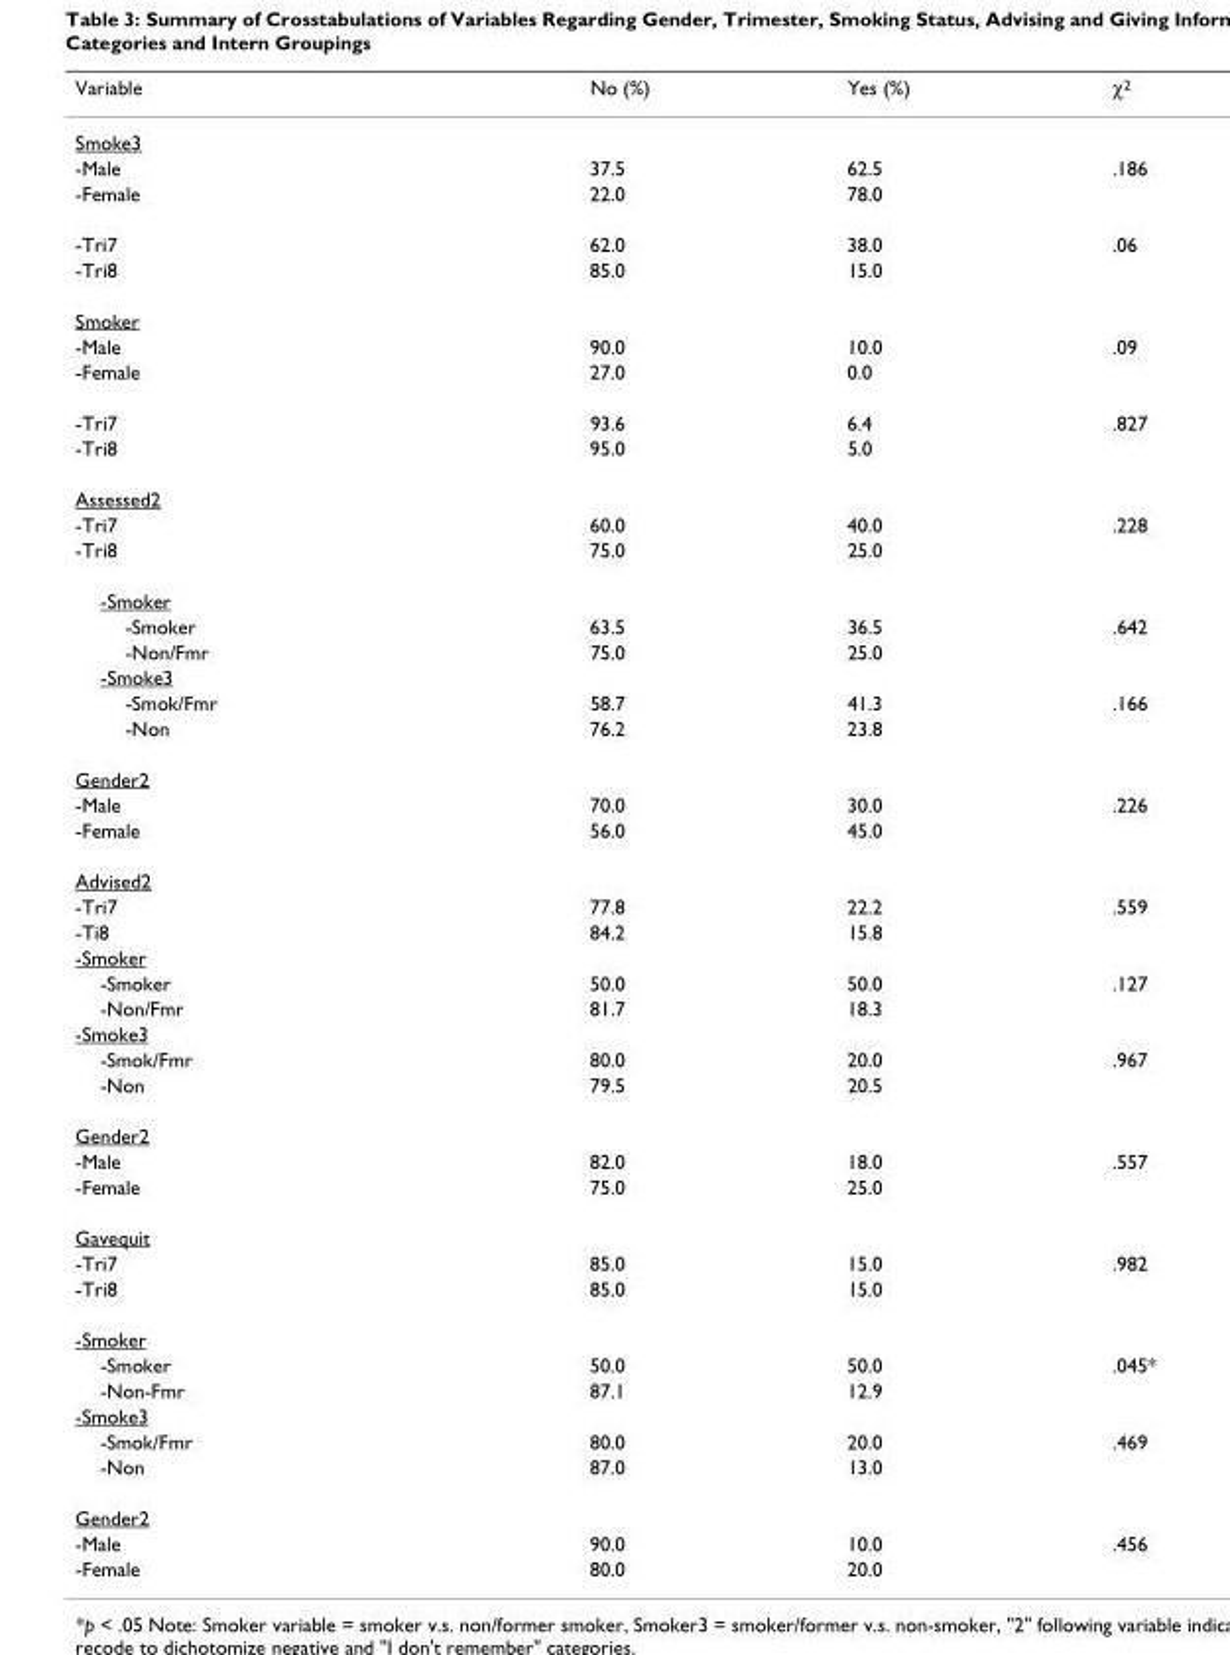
<table><thead><tr><td>Variable</td><td>No (%)</td><td>Yes (%)</td><td>χ<sup>2</sup></td></tr></thead><tbody><tr><td colspan="4">Smoke3</td></tr><tr><td>-Male</td><td>37.5</td><td>62.5</td><td>.186</td></tr><tr><td>-Female</td><td>22.0</td><td>78.0</td><td></td></tr><tr><td>-Tri7</td><td>62.0</td><td>38.0</td><td>.06</td></tr><tr><td>-Tri8</td><td>85.0</td><td>15.0</td><td></td></tr><tr><td colspan="4">Smoker</td></tr><tr><td>-Male</td><td>90.0</td><td>10.0</td><td>.09</td></tr><tr><td>-Female</td><td>27.0</td><td>0.0</td><td></td></tr><tr><td>-Tri7</td><td>93.6</td><td>6.4</td><td>.827</td></tr><tr><td>-Tri8</td><td>95.0</td><td>5.0</td><td></td></tr><tr><td colspan="4">Assessed2</td></tr><tr><td>-Tri7</td><td>60.0</td><td>40.0</td><td>.228</td></tr><tr><td>-Tri8</td><td>75.0</td><td>25.0</td><td></td></tr><tr><td colspan="4">-Smoker</td></tr><tr><td>-Smoker</td><td>63.5</td><td>36.5</td><td>.642</td></tr><tr><td>-Non/Fmr</td><td>75.0</td><td>25.0</td><td></td></tr><tr><td colspan="4">-Smoke3</td></tr><tr><td>-Smok/Fmr</td><td>58.7</td><td>41.3</td><td>.166</td></tr><tr><td>-Non</td><td>76.2</td><td>23.8</td><td></td></tr><tr><td colspan="4">Gender2</td></tr><tr><td>-Male</td><td>70.0</td><td>30.0</td><td>.226</td></tr><tr><td>-Female</td><td>56.0</td><td>45.0</td><td></td></tr><tr><td colspan="4">Advised2</td></tr><tr><td>-Tri7</td><td>77.8</td><td>22.2</td><td>.559</td></tr><tr><td>-Ti8</td><td>84.2</td><td>15.8</td><td></td></tr><tr><td colspan="4">-Smoker</td></tr><tr><td>-Smoker</td><td>50.0</td><td>50.0</td><td>.127</td></tr><tr><td>-Non/Fmr</td><td>81.7</td><td>18.3</td><td></td></tr><tr><td colspan="4">-Smoke3</td></tr><tr><td>-Smok/Fmr</td><td>80.0</td><td>20.0</td><td>.967</td></tr><tr><td>-Non</td><td>79.5</td><td>20.5</td><td></td></tr><tr><td colspan="4">Gender2</td></tr><tr><td>-Male</td><td>82.0</td><td>18.0</td><td>.557</td></tr><tr><td>-Female</td><td>75.0</td><td>25.0</td><td></td></tr><tr><td colspan="4">Gavequit</td></tr><tr><td>-Tri7</td><td>85.0</td><td>15.0</td><td>.982</td></tr><tr><td>-Tri8</td><td>85.0</td><td>15.0</td><td></td></tr><tr><td colspan="4">-Smoker</td></tr><tr><td>-Smoker</td><td>50.0</td><td>50.0</td><td>.045*</td></tr><tr><td>-Non-Fmr</td><td>87.1</td><td>12.9</td><td></td></tr><tr><td colspan="4">-Smoke3</td></tr><tr><td>-Smok/Fmr</td><td>80.0</td><td>20.0</td><td>.469</td></tr><tr><td>-Non</td><td>87.0</td><td>13.0</td><td></td></tr><tr><td colspan="4">Gender2</td></tr><tr><td>-Male</td><td>90.0</td><td>10.0</td><td>.456</td></tr><tr><td>-Female</td><td>80.0</td><td>20.0</td><td></td></tr></tbody></table>